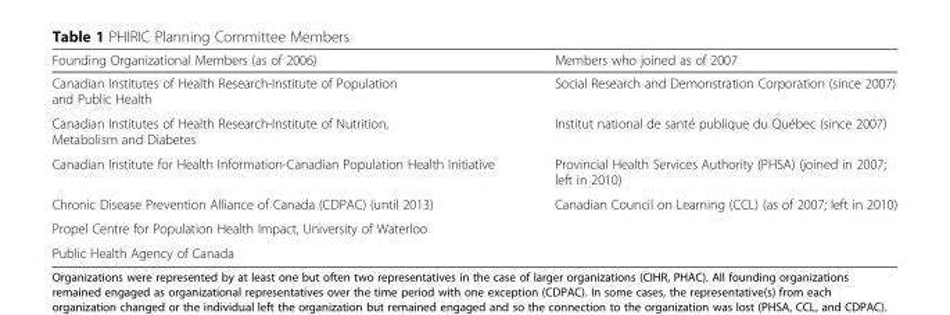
<table><thead><tr><td>Founding Organizational Members (as of 2006)</td><td>Members who joined as of 2007</td></tr></thead><tbody><tr><td>Canadian Institutes of Health Research-Institute of Population and Public Health</td><td>Social Research and Demonstration Corporation (since 2007)</td></tr><tr><td>Canadian Institutes of Health Research-Institute of Nutrition, Metabolism and Diabetes</td><td>Institut national de santé publique du Québec (since 2007)</td></tr><tr><td>Canadian Institute for Health Information-Canadian Population Health Initiative</td><td>Provincial Health Services Authority (PHSA) (joined in 2007; left in 2010)</td></tr><tr><td>Chronic Disease Prevention Alliance of Canada (CDPAC) (until 2013)</td><td>Canadian Council on Learning (CCL) (as of 2007; left in 2010)</td></tr><tr><td colspan="2">Propel Centre for Population Health Impact, University of Waterloo</td></tr><tr><td>Public Health Agency of Canada</td><td></td></tr></tbody></table>